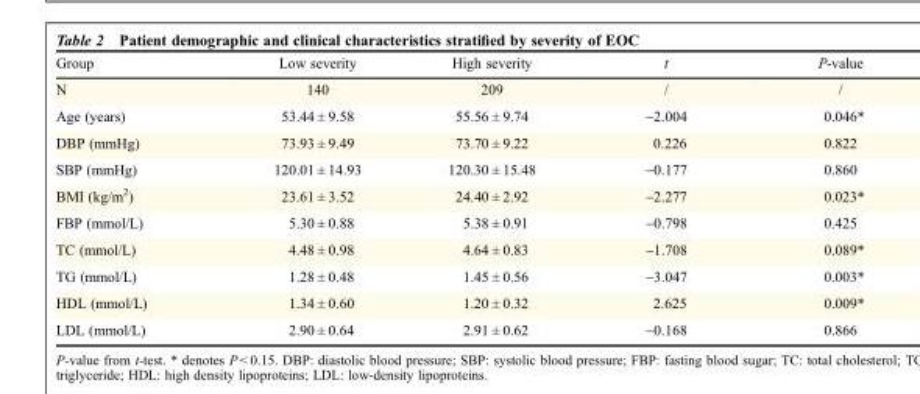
<table><thead><tr><td>Group</td><td>Low severity</td><td>High severity</td><td>t</td><td>P-value</td></tr></thead><tbody><tr><td>N</td><td>140</td><td>209</td><td>/</td><td>/</td></tr><tr><td>Age (years)</td><td>53.44 ± 9.58</td><td>55.56 ± 9.74</td><td>-2.004</td><td>0.046*</td></tr><tr><td>DBP (mmHg)</td><td>73.93 ± 9.49</td><td>73.70 ± 9.22</td><td>0.226</td><td>0.822</td></tr><tr><td>SBP (mmHg)</td><td>120.01 ± 14.93</td><td>120.30 ± 15.48</td><td>-0.177</td><td>0.860</td></tr><tr><td>BMI (kg/m<sup>2</sup>)</td><td>23.61 ± 3.52</td><td>24.40 ± 2.92</td><td>-2.277</td><td>0.023*</td></tr><tr><td>FBP (mmol/L)</td><td>5.30 ± 0.88</td><td>5.38 ± 0.91</td><td>-0.798</td><td>0.425</td></tr><tr><td>TC (mmol/L)</td><td>4.48 ± 0.98</td><td>4.64 ± 0.83</td><td>-1.708</td><td>0.089*</td></tr><tr><td>TG (mmol/L)</td><td>1.28 ± 0.48</td><td>1.45 ± 0.56</td><td>-3.047</td><td>0.003*</td></tr><tr><td>HDL (mmol/L)</td><td>1.34 ± 0.60</td><td>1.20 ± 0.32</td><td>2.625</td><td>0.009*</td></tr><tr><td>LDL (mmol/L)</td><td>2.90 ± 0.64</td><td>2.91 ± 0.62</td><td>-0.168</td><td>0.866</td></tr></tbody></table>